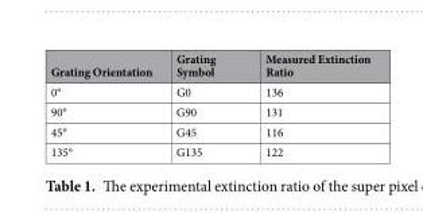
<table><thead><tr><td>Grating Orientation</td><td>Grating Symbol</td><td>Measured Extinction Ratio</td></tr></thead><tbody><tr><td>0°</td><td>G0</td><td>136</td></tr><tr><td>90°</td><td>G90</td><td>131</td></tr><tr><td>45°</td><td>G45</td><td>116</td></tr><tr><td>135°</td><td>G135</td><td>122</td></tr></tbody></table>